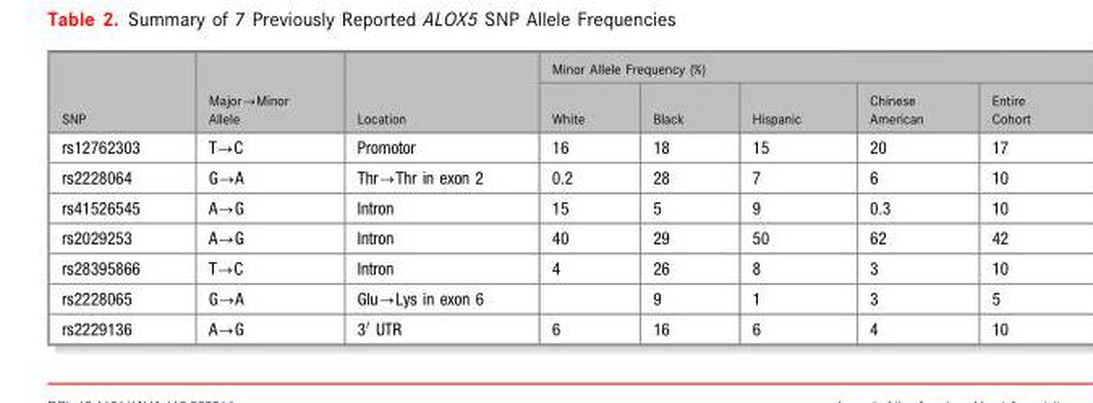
<table><thead><tr><td rowspan="2">SNP</td><td rowspan="2">Major→Minor Allele</td><td rowspan="2">Location</td><td colspan="5">Minor Allele Frequency (%)</td></tr><tr><td>White</td><td>Black</td><td>Hispanic</td><td>Chinese American</td><td>Entire Cohort</td></tr></thead><tbody><tr><td>rs12762303</td><td>T→C</td><td>Promotor</td><td>16</td><td>18</td><td>15</td><td>20</td><td>17</td></tr><tr><td>rs2228064</td><td>G→A</td><td>Thr→Thr in exon 2</td><td>0.2</td><td>28</td><td>7</td><td>6</td><td>10</td></tr><tr><td>rs41526545</td><td>A→G</td><td>Intron</td><td>15</td><td>5</td><td>9</td><td>0.3</td><td>10</td></tr><tr><td>rs2029253</td><td>A→G</td><td>Intron</td><td>40</td><td>29</td><td>50</td><td>62</td><td>42</td></tr><tr><td>rs28395866</td><td>T→C</td><td>Intron</td><td>4</td><td>26</td><td>8</td><td>3</td><td>10</td></tr><tr><td>rs2228065</td><td>G→A</td><td>Glu→Lys in exon 6</td><td></td><td>9</td><td>1</td><td>3</td><td>5</td></tr><tr><td>rs2229136</td><td>A→G</td><td>3′ UTR</td><td>6</td><td>16</td><td>6</td><td>4</td><td>10</td></tr></tbody></table>